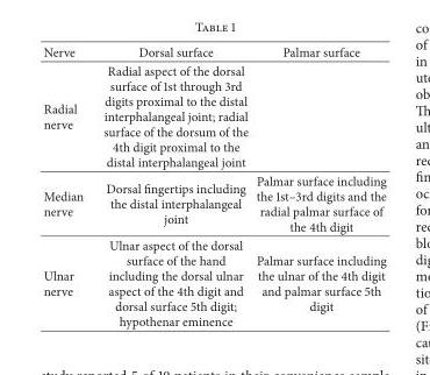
<table><thead><tr><td>Nerve</td><td>Dorsal surface</td><td>Palmar surface</td></tr></thead><tbody><tr><td>Radial nerve</td><td>Radial aspect of the dorsal surface of 1st through 3rd digits proximal to the distal interphalangeal joint; radial surface of the dorsum of the 4th digit proximal to the distal interphalangeal joint</td><td></td></tr><tr><td>Median nerve</td><td>Dorsal fingertips including the distal interphalangeal joint</td><td>Palmar surface including the 1st–3rd digits and the radial palmar surface of the 4th digit</td></tr><tr><td>Ulnar nerve</td><td>Ulnar aspect of the dorsal surface of the hand including the dorsal ulnar aspect of the 4th digit and dorsal surface 5th digit; hypothenar eminence</td><td>Palmar surface including the ulnar of the 4th digit and palmar surface 5th digit</td></tr></tbody></table>